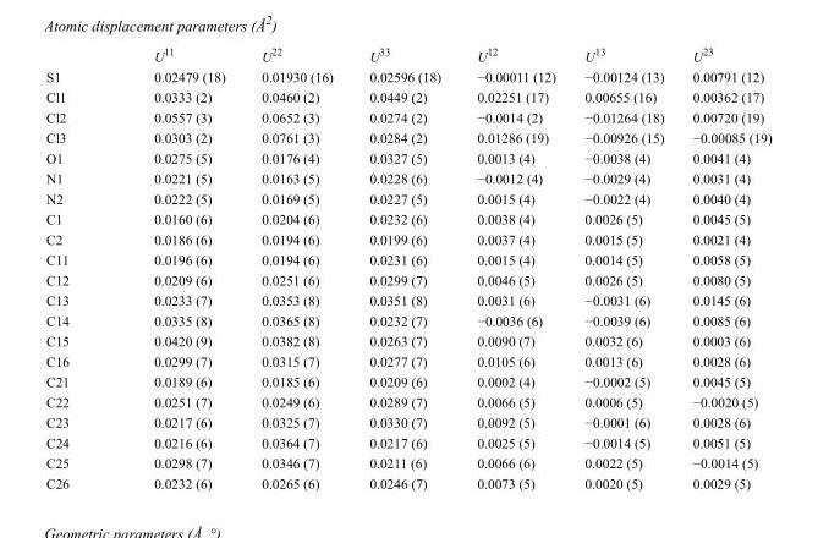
<table><thead><tr><td></td><td>U<sup>11</sup></td><td>U<sup>22</sup></td><td>U<sup>33</sup></td><td>U<sup>12</sup></td><td>U<sup>13</sup></td><td>U<sup>23</sup></td></tr></thead><tbody><tr><td>S1</td><td>0.02479 (18)</td><td>0.01930 (16)</td><td>0.02596 (18)</td><td>−0.00011 (12)</td><td>−0.00124 (13)</td><td>0.00791 (12)</td></tr><tr><td>Cl1</td><td>0.0333 (2)</td><td>0.0460 (2)</td><td>0.0449 (2)</td><td>0.02251 (17)</td><td>0.00655 (16)</td><td>0.00362 (17)</td></tr><tr><td>Cl2</td><td>0.0557 (3)</td><td>0.0652 (3)</td><td>0.0274 (2)</td><td>−0.0014 (2)</td><td>−0.01264 (18)</td><td>0.00720 (19)</td></tr><tr><td>Cl3</td><td>0.0303 (2)</td><td>0.0761 (3)</td><td>0.0284 (2)</td><td>0.01286 (19)</td><td>−0.00926 (15)</td><td>−0.00085 (19)</td></tr><tr><td>O1</td><td>0.0275 (5)</td><td>0.0176 (4)</td><td>0.0327 (5)</td><td>0.0013 (4)</td><td>−0.0038 (4)</td><td>0.0041 (4)</td></tr><tr><td>N1</td><td>0.0221 (5)</td><td>0.0163 (5)</td><td>0.0228 (6)</td><td>−0.0012 (4)</td><td>−0.0029 (4)</td><td>0.0031 (4)</td></tr><tr><td>N2</td><td>0.0222 (5)</td><td>0.0169 (5)</td><td>0.0227 (5)</td><td>0.0015 (4)</td><td>−0.0022 (4)</td><td>0.0040 (4)</td></tr><tr><td>C1</td><td>0.0160 (6)</td><td>0.0204 (6)</td><td>0.0232 (6)</td><td>0.0038 (4)</td><td>0.0026 (5)</td><td>0.0045 (5)</td></tr><tr><td>C2</td><td>0.0186 (6)</td><td>0.0194 (6)</td><td>0.0199 (6)</td><td>0.0037 (4)</td><td>0.0015 (5)</td><td>0.0021 (4)</td></tr><tr><td>C11</td><td>0.0196 (6)</td><td>0.0194 (6)</td><td>0.0231 (6)</td><td>0.0015 (4)</td><td>0.0014 (5)</td><td>0.0058 (5)</td></tr><tr><td>C12</td><td>0.0209 (6)</td><td>0.0251 (6)</td><td>0.0299 (7)</td><td>0.0046 (5)</td><td>0.0026 (5)</td><td>0.0080 (5)</td></tr><tr><td>C13</td><td>0.0233 (7)</td><td>0.0353 (8)</td><td>0.0351 (8)</td><td>0.0031 (6)</td><td>−0.0031 (6)</td><td>0.0145 (6)</td></tr><tr><td>C14</td><td>0.0335 (8)</td><td>0.0365 (8)</td><td>0.0232 (7)</td><td>−0.0036 (6)</td><td>−0.0039 (6)</td><td>0.0085 (6)</td></tr><tr><td>C15</td><td>0.0420 (9)</td><td>0.0382 (8)</td><td>0.0263 (7)</td><td>0.0090 (7)</td><td>0.0032 (6)</td><td>0.0003 (6)</td></tr><tr><td>C16</td><td>0.0299 (7)</td><td>0.0315 (7)</td><td>0.0277 (7)</td><td>0.0105 (6)</td><td>0.0013 (6)</td><td>0.0028 (6)</td></tr><tr><td>C21</td><td>0.0189 (6)</td><td>0.0185 (6)</td><td>0.0209 (6)</td><td>0.0002 (4)</td><td>−0.0002 (5)</td><td>0.0045 (5)</td></tr><tr><td>C22</td><td>0.0251 (7)</td><td>0.0249 (6)</td><td>0.0289 (7)</td><td>0.0066 (5)</td><td>0.0006 (5)</td><td>−0.0020 (5)</td></tr><tr><td>C23</td><td>0.0217 (6)</td><td>0.0325 (7)</td><td>0.0330 (7)</td><td>0.0092 (5)</td><td>−0.0001 (6)</td><td>0.0028 (6)</td></tr><tr><td>C24</td><td>0.0216 (6)</td><td>0.0364 (7)</td><td>0.0217 (6)</td><td>0.0025 (5)</td><td>−0.0014 (5)</td><td>0.0051 (5)</td></tr><tr><td>C25</td><td>0.0298 (7)</td><td>0.0346 (7)</td><td>0.0211 (6)</td><td>0.0066 (6)</td><td>0.0022 (5)</td><td>−0.0014 (5)</td></tr><tr><td>C26</td><td>0.0232 (6)</td><td>0.0265 (6)</td><td>0.0246 (7)</td><td>0.0073 (5)</td><td>0.0020 (5)</td><td>0.0029 (5)</td></tr></tbody></table>